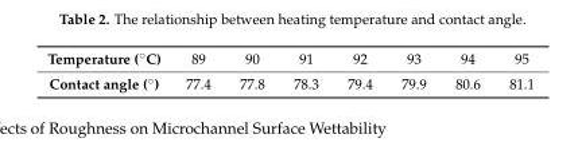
<table><tbody><tr><td>Temperature (˝C)</td><td>89</td><td>90</td><td>91</td><td>92</td><td>93</td><td>94</td><td>95</td></tr><tr><td>Contact angle (˝)</td><td>77.4</td><td>77.8</td><td>78.3</td><td>79.4</td><td>79.9</td><td>80.6</td><td>81.1</td></tr></tbody></table>